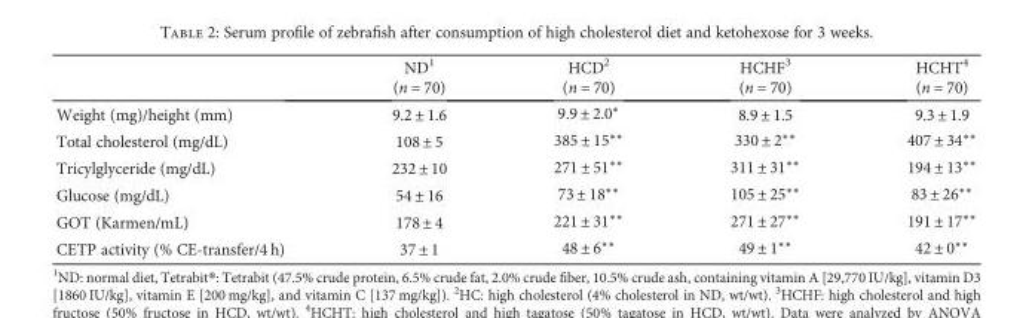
<table><thead><tr><td></td><td>ND<sup>1</sup> (n = 70)</td><td>HCD<sup>2</sup> (n = 70)</td><td>HCHF<sup>3</sup> (n = 70)</td><td>HCHT<sup>4</sup> (n = 70)</td></tr></thead><tbody><tr><td>Weight (mg)/height (mm)</td><td>9.2 ± 1.6</td><td>9.9 ± 2.0∗</td><td>8.9 ± 1.5</td><td>9.3 ± 1.9</td></tr><tr><td>Total cholesterol (mg/dL)</td><td>108 ± 5</td><td>385 ± 15∗∗</td><td>330 ± 2∗∗</td><td>407 ± 34∗∗</td></tr><tr><td>Tricylglyceride (mg/dL)</td><td>232 ± 10</td><td>271 ± 51∗∗</td><td>311 ± 31∗∗</td><td>194 ± 13∗∗</td></tr><tr><td>Glucose (mg/dL)</td><td>54 ± 16</td><td>73 ± 18∗∗</td><td>105 ± 25∗∗</td><td>83 ± 26∗∗</td></tr><tr><td>GOT (Karmen/mL)</td><td>178 ± 4</td><td>221 ± 31∗∗</td><td>271 ± 27∗∗</td><td>191 ± 17∗∗</td></tr><tr><td>CETP activity (% CE-transfer/4 h)</td><td>37 ± 1</td><td>48 ± 6∗∗</td><td>49 ± 1∗∗</td><td>42 ± 0∗∗</td></tr></tbody></table>